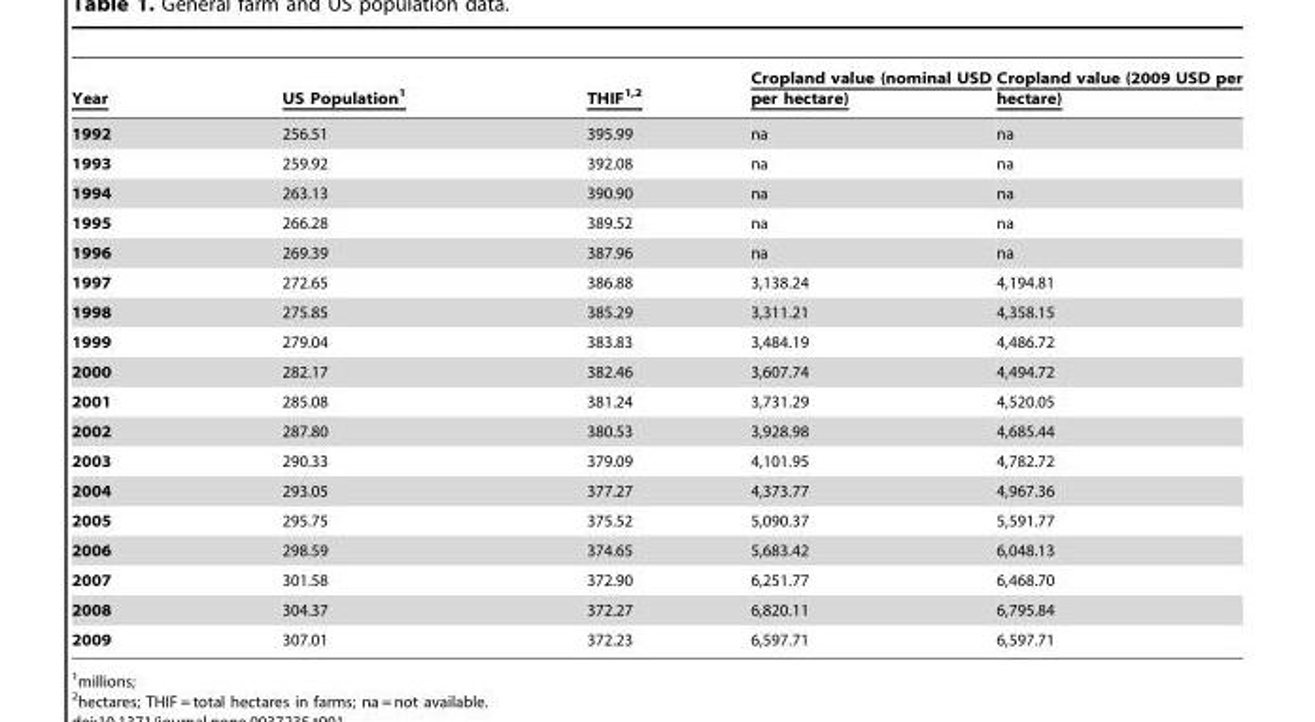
<table><thead><tr><td>Year</td><td>US Population1</td><td>THIF1<sup>,</sup>2</td><td>Cropland value (nominal USD per hectare)</td><td>Cropland value (2009 USD per hectare)</td></tr></thead><tbody><tr><td>1992</td><td>256.51</td><td>395.99</td><td>na</td><td>na</td></tr><tr><td>1993</td><td>259.92</td><td>392.08</td><td>na</td><td>na</td></tr><tr><td>1994</td><td>263.13</td><td>390.90</td><td>na</td><td>na</td></tr><tr><td>1995</td><td>266.28</td><td>389.52</td><td>na</td><td>na</td></tr><tr><td>1996</td><td>269.39</td><td>387.96</td><td>na</td><td>na</td></tr><tr><td>1997</td><td>272.65</td><td>386.88</td><td>3,138.24</td><td>4,194.81</td></tr><tr><td>1998</td><td>275.85</td><td>385.29</td><td>3,311.21</td><td>4,358.15</td></tr><tr><td>1999</td><td>279.04</td><td>383.83</td><td>3,484.19</td><td>4,486.72</td></tr><tr><td>2000</td><td>282.17</td><td>382.46</td><td>3,607.74</td><td>4,494.72</td></tr><tr><td>2001</td><td>285.08</td><td>381.24</td><td>3,731.29</td><td>4,520.05</td></tr><tr><td>2002</td><td>287.80</td><td>380.53</td><td>3,928.98</td><td>4,685.44</td></tr><tr><td>2003</td><td>290.33</td><td>379.09</td><td>4,101.95</td><td>4,782.72</td></tr><tr><td>2004</td><td>293.05</td><td>377.27</td><td>4,373.77</td><td>4,967.36</td></tr><tr><td>2005</td><td>295.75</td><td>375.52</td><td>5,090.37</td><td>5,591.77</td></tr><tr><td>2006</td><td>298.59</td><td>374.65</td><td>5,683.42</td><td>6,048.13</td></tr><tr><td>2007</td><td>301.58</td><td>372.90</td><td>6,251.77</td><td>6,468.70</td></tr><tr><td>2008</td><td>304.37</td><td>372.27</td><td>6,820.11</td><td>6,795.84</td></tr><tr><td>2009</td><td>307.01</td><td>372.23</td><td>6,597.71</td><td>6,597.71</td></tr></tbody></table>